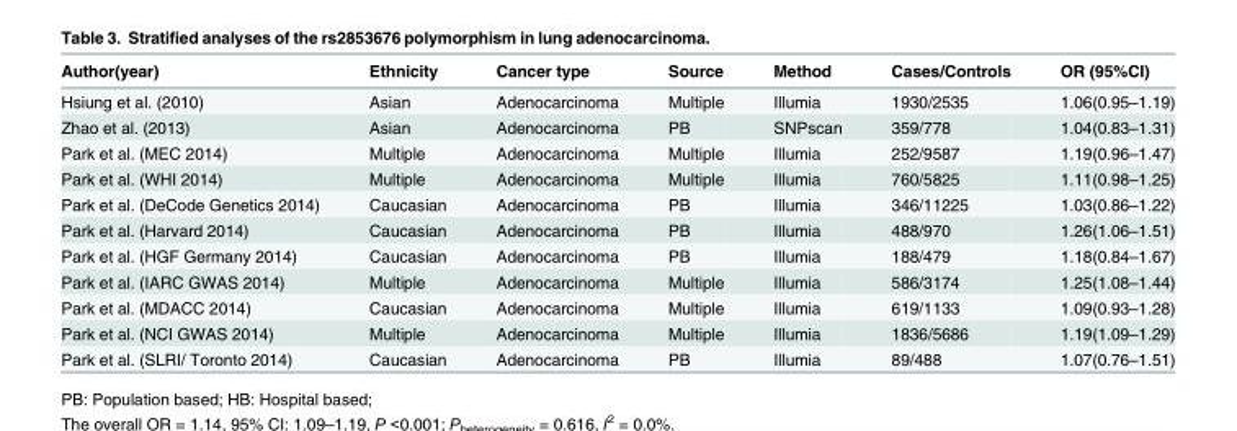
<table><thead><tr><td>Author(year)</td><td>Ethnicity</td><td>Cancer type</td><td>Source</td><td>Method</td><td>Cases/Controls</td><td>OR (95%CI)</td></tr></thead><tbody><tr><td>Hsiung et al. (2010)</td><td>Asian</td><td>Adenocarcinoma</td><td>Multiple</td><td>Illumia</td><td>1930/2535</td><td>1.06(0.95–1.19)</td></tr><tr><td>Zhao et al. (2013)</td><td>Asian</td><td>Adenocarcinoma</td><td>PB</td><td>SNPscan</td><td>359/778</td><td>1.04(0.83–1.31)</td></tr><tr><td>Park et al. (MEC 2014)</td><td>Multiple</td><td>Adenocarcinoma</td><td>Multiple</td><td>Illumia</td><td>252/9587</td><td>1.19(0.96–1.47)</td></tr><tr><td>Park et al. (WHI 2014)</td><td>Multiple</td><td>Adenocarcinoma</td><td>Multiple</td><td>Illumia</td><td>760/5825</td><td>1.11(0.98–1.25)</td></tr><tr><td>Park et al. (DeCode Genetics 2014)</td><td>Caucasian</td><td>Adenocarcinoma</td><td>PB</td><td>Illumia</td><td>346/11225</td><td>1.03(0.86–1.22)</td></tr><tr><td>Park et al. (Harvard 2014)</td><td>Caucasian</td><td>Adenocarcinoma</td><td>PB</td><td>Illumia</td><td>488/970</td><td>1.26(1.06–1.51)</td></tr><tr><td>Park et al. (HGF Germany 2014)</td><td>Caucasian</td><td>Adenocarcinoma</td><td>PB</td><td>Illumia</td><td>188/479</td><td>1.18(0.84–1.67)</td></tr><tr><td>Park et al. (IARC GWAS 2014)</td><td>Multiple</td><td>Adenocarcinoma</td><td>Multiple</td><td>Illumia</td><td>586/3174</td><td>1.25(1.08–1.44)</td></tr><tr><td>Park et al. (MDACC 2014)</td><td>Caucasian</td><td>Adenocarcinoma</td><td>Multiple</td><td>Illumia</td><td>619/1133</td><td>1.09(0.93–1.28)</td></tr><tr><td>Park et al. (NCI GWAS 2014)</td><td>Multiple</td><td>Adenocarcinoma</td><td>Multiple</td><td>Illumia</td><td>1836/5686</td><td>1.19(1.09–1.29)</td></tr><tr><td>Park et al. (SLRI/ Toronto 2014)</td><td>Caucasian</td><td>Adenocarcinoma</td><td>PB</td><td>Illumia</td><td>89/488</td><td>1.07(0.76–1.51)</td></tr></tbody></table>